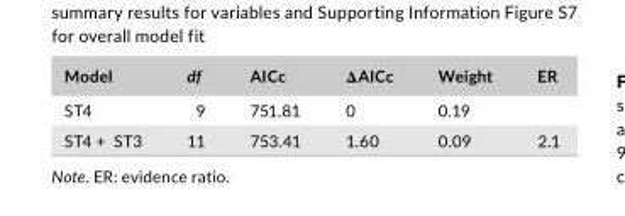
<table><thead><tr><td>Model</td><td>df</td><td>AICc</td><td>ΔAICc</td><td>Weight</td><td>ER</td></tr></thead><tbody><tr><td>ST4</td><td>9</td><td>751.81</td><td>0</td><td>0.19</td><td></td></tr><tr><td>ST4 + ST3</td><td>11</td><td>753.41</td><td>1.60</td><td>0.09</td><td>2.1</td></tr></tbody></table>